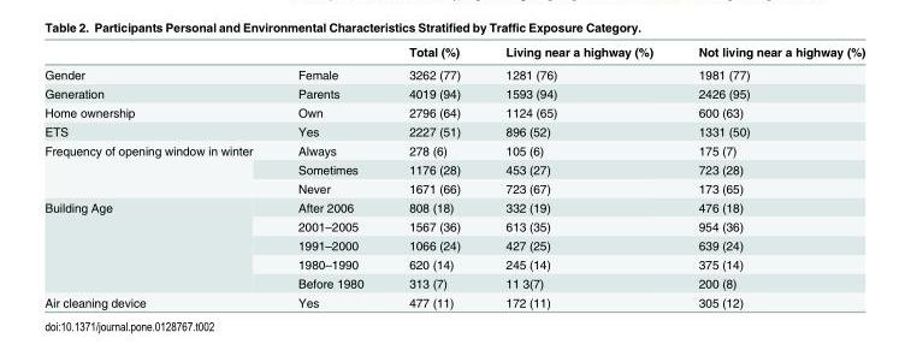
<table><thead><tr><td></td><td></td><td>Total (%)</td><td>Living near a highway (%)</td><td>Not living near a highway (%)</td></tr></thead><tbody><tr><td>Gender</td><td>Female</td><td>3262 (77)</td><td>1281 (76)</td><td>1981 (77)</td></tr><tr><td>Generation</td><td>Parents</td><td>4019 (94)</td><td>1593 (94)</td><td>2426 (95)</td></tr><tr><td>Home ownership</td><td>Own</td><td>2796 (64)</td><td>1124 (65)</td><td>600 (63)</td></tr><tr><td>ETS</td><td>Yes</td><td>2227 (51)</td><td>896 (52)</td><td>1331 (50)</td></tr><tr><td rowspan="3">Frequency of opening window in winter</td><td>Always</td><td>278 (6)</td><td>105 (6)</td><td>175 (7)</td></tr><tr><td>Sometimes</td><td>1176 (28)</td><td>453 (27)</td><td>723 (28)</td></tr><tr><td>Never</td><td>1671 (66)</td><td>723 (67)</td><td>173 (65)</td></tr><tr><td rowspan="5">Building Age</td><td>After 2006</td><td>808 (18)</td><td>332 (19)</td><td>476 (18)</td></tr><tr><td>2001–2005</td><td>1567 (36)</td><td>613 (35)</td><td>954 (36)</td></tr><tr><td>1991–2000</td><td>1066 (24)</td><td>427 (25)</td><td>639 (24)</td></tr><tr><td>1980–1990</td><td>620 (14)</td><td>245 (14)</td><td>375 (14)</td></tr><tr><td>Before 1980</td><td>313 (7)</td><td>11 3(7)</td><td>200 (8)</td></tr><tr><td>Air cleaning device</td><td>Yes</td><td>477 (11)</td><td>172 (11)</td><td>305 (12)</td></tr></tbody></table>